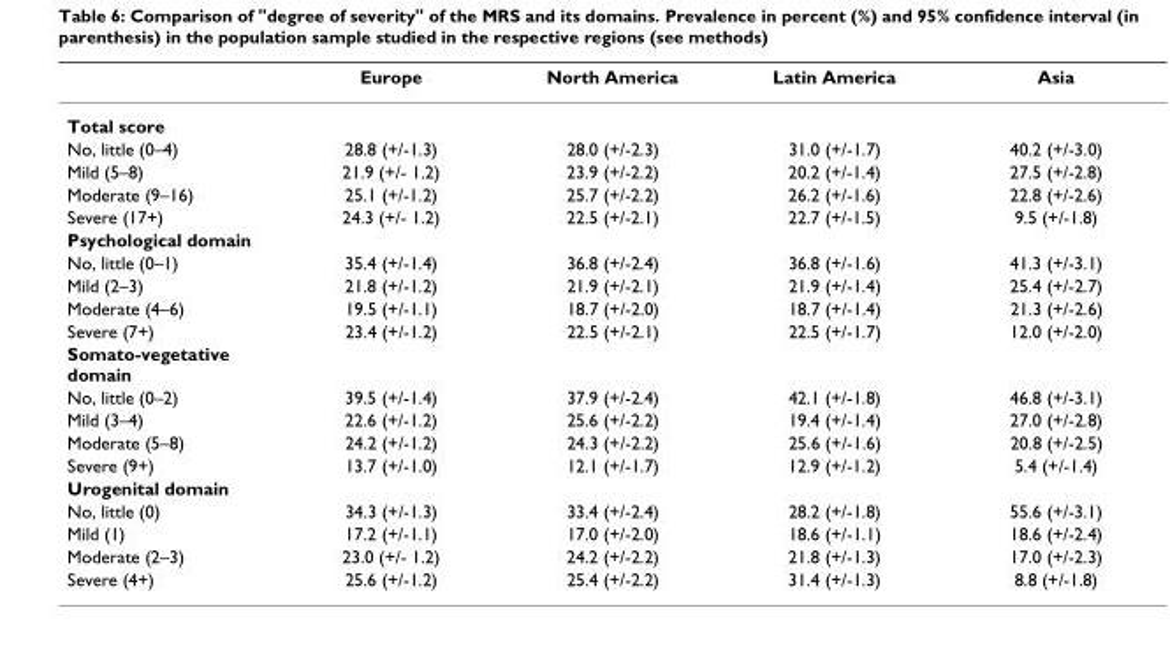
<table><thead><tr><td></td><td>Europe</td><td>North America</td><td>Latin America</td><td>Asia</td></tr></thead><tbody><tr><td colspan="5">Total score</td></tr><tr><td>No, little (0–4)</td><td>28.8 (+/-1.3)</td><td>28.0 (+/-2.3)</td><td>31.0 (+/-1.7)</td><td>40.2 (+/-3.0)</td></tr><tr><td>Mild (5–8)</td><td>21.9 (+/- 1.2)</td><td>23.9 (+/-2.2)</td><td>20.2 (+/-1.4)</td><td>27.5 (+/-2.8)</td></tr><tr><td>Moderate (9–16)</td><td>25.1 (+/-1.2)</td><td>25.7 (+/-2.2)</td><td>26.2 (+/-1.6)</td><td>22.8 (+/-2.6)</td></tr><tr><td>Severe (17+)</td><td>24.3 (+/- 1.2)</td><td>22.5 (+/-2.1)</td><td>22.7 (+/-1.5)</td><td>9.5 (+/-1.8)</td></tr><tr><td colspan="5">Psychological domain</td></tr><tr><td>No, little (0–1)</td><td>35.4 (+/-1.4)</td><td>36.8 (+/-2.4)</td><td>36.8 (+/-1.6)</td><td>41.3 (+/-3.1)</td></tr><tr><td>Mild (2–3)</td><td>21.8 (+/-1.2)</td><td>21.9 (+/-2.1)</td><td>21.9 (+/-1.4)</td><td>25.4 (+/-2.7)</td></tr><tr><td>Moderate (4–6)</td><td>19.5 (+/-1.1)</td><td>18.7 (+/-2.0)</td><td>18.7 (+/-1.4)</td><td>21.3 (+/-2.6)</td></tr><tr><td>Severe (7+)</td><td>23.4 (+/-1.2)</td><td>22.5 (+/-2.1)</td><td>22.5 (+/-1.7)</td><td>12.0 (+/-2.0)</td></tr><tr><td colspan="5">Somato-vegetative domain</td></tr><tr><td>No, little (0–2)</td><td>39.5 (+/-1.4)</td><td>37.9 (+/-2.4)</td><td>42.1 (+/-1.8)</td><td>46.8 (+/-3.1)</td></tr><tr><td>Mild (3–4)</td><td>22.6 (+/-1.2)</td><td>25.6 (+/-2.2)</td><td>19.4 (+/-1.4)</td><td>27.0 (+/-2.8)</td></tr><tr><td>Moderate (5–8)</td><td>24.2 (+/-1.2)</td><td>24.3 (+/-2.2)</td><td>25.6 (+/-1.6)</td><td>20.8 (+/-2.5)</td></tr><tr><td>Severe (9+)</td><td>13.7 (+/-1.0)</td><td>12.1 (+/-1.7)</td><td>12.9 (+/-1.2)</td><td>5.4 (+/-1.4)</td></tr><tr><td colspan="5">Urogenital domain</td></tr><tr><td>No, little (0)</td><td>34.3 (+/-1.3)</td><td>33.4 (+/-2.4)</td><td>28.2 (+/-1.8)</td><td>55.6 (+/-3.1)</td></tr><tr><td>Mild (1)</td><td>17.2 (+/-1.1)</td><td>17.0 (+/-2.0)</td><td>18.6 (+/-1.1)</td><td>18.6 (+/-2.4)</td></tr><tr><td>Moderate (2–3)</td><td>23.0 (+/- 1.2)</td><td>24.2 (+/-2.2)</td><td>21.8 (+/-1.3)</td><td>17.0 (+/-2.3)</td></tr><tr><td>Severe (4+)</td><td>25.6 (+/-1.2)</td><td>25.4 (+/-2.2)</td><td>31.4 (+/-1.3)</td><td>8.8 (+/-1.8)</td></tr></tbody></table>